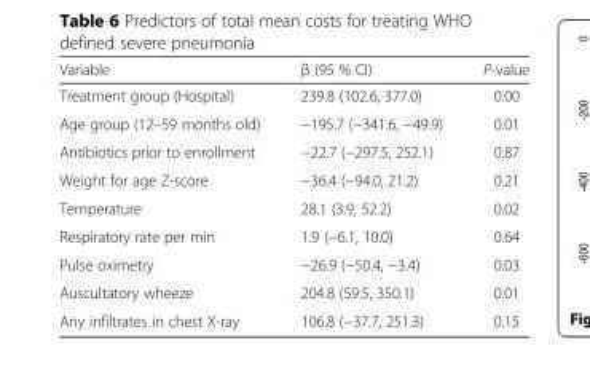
<table><thead><tr><td>Variable</td><td>β (95 % CI)</td><td>P-value</td></tr></thead><tbody><tr><td>Treatment group (Hospital)</td><td>239.8 (102.6, 377.0)</td><td>0.00</td></tr><tr><td>Age group (12–59 months old)</td><td>−195.7 (−341.6, −49.9)</td><td>0.01</td></tr><tr><td>Antibiotics prior to enrollment</td><td>−22.7 (−297.5, 252.1)</td><td>0.87</td></tr><tr><td>Weight for age Z-score</td><td>−36.4 (−94.0, 21.2)</td><td>0.21</td></tr><tr><td>Temperature</td><td>28.1 (3.9, 52.2)</td><td>0.02</td></tr><tr><td>Respiratory rate per min</td><td>1.9 (−6.1, 10.0)</td><td>0.64</td></tr><tr><td>Pulse oximetry</td><td>−26.9 (−50.4, −3.4)</td><td>0.03</td></tr><tr><td>Auscultatory wheeze</td><td>204.8 (59.5, 350.1)</td><td>0.01</td></tr><tr><td>Any infiltrates in chest X-ray</td><td>106.8 (−37.7, 251.3)</td><td>0.15</td></tr></tbody></table>